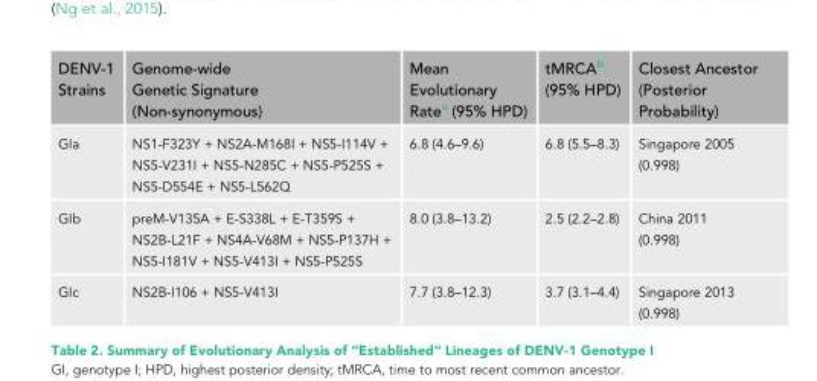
<table><thead><tr><td>DENV-1 Strains</td><td>Genome-wide Genetic Signature (Non-synonymous)</td><td>Mean Evolutionary Rate<sup>a</sup> (95% HPD)</td><td>tMRCA<sup>b</sup> (95% HPD)</td><td>Closest Ancestor (Posterior Probability)</td></tr></thead><tbody><tr><td>GIa</td><td>NS1-F323Y + NS2A-M168I + NS5-I114V + NS5-V231I + NS5-N285C + NS5-P525S + NS5-D554E + NS5-L562Q</td><td>6.8 (4.6–9.6)</td><td>6.8 (5.5–8.3)</td><td>Singapore 2005 (0.998)</td></tr><tr><td>GIb</td><td>preM-V135A + E-S338L + E-T359S + NS2B-L21F + NS4A-V68M + NS5-P137H + NS5-I181V + NS5-V413I + NS5-P525S</td><td>8.0 (3.8–13.2)</td><td>2.5 (2.2–2.8)</td><td>China 2011 (0.998)</td></tr><tr><td>GIc</td><td>NS2B-I106 + NS5-V413I</td><td>7.7 (3.8–12.3)</td><td>3.7 (3.1–4.4)</td><td>Singapore 2013 (0.998)</td></tr></tbody></table>